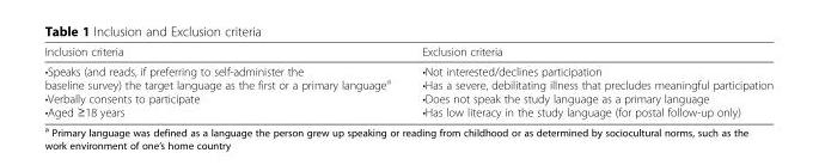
<table><thead><tr><td>Inclusion criteria</td><td>Exclusion criteria</td></tr></thead><tbody><tr><td>•Speaks (and reads, if preferring to self-administer the baseline survey) the target language as the first or a primary language<sup>a</sup> •Verbally consents to participate •Aged ≥18 years</td><td>•Not interested/declines participation •Has a severe, debilitating illness that precludes meaningful participation •Does not speak the study language as a primary language •Has low literacy in the study language (for postal follow-up only)</td></tr></tbody></table>